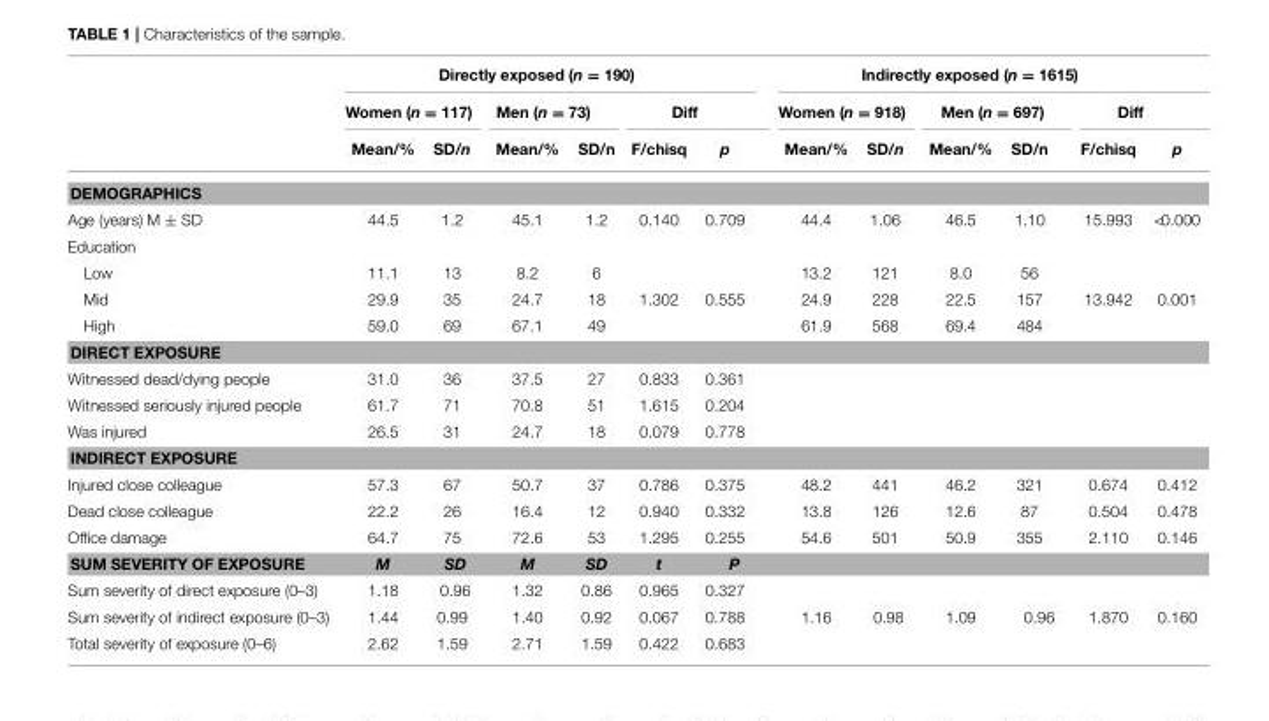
<table><thead><tr><td rowspan="3"></td><td colspan="6">Directly exposed (n = 190)</td><td colspan="6">Indirectly exposed (n = 1615)</td></tr><tr><td colspan="2">Women (n = 117)</td><td colspan="2">Men (n = 73)</td><td colspan="2">Diff</td><td colspan="2">Women (n = 918)</td><td colspan="2">Men (n = 697)</td><td colspan="2">Diff</td></tr><tr><td>Mean/%</td><td>SD/n</td><td>Mean/%</td><td>SD/n</td><td>F/chisq</td><td>p</td><td>Mean/%</td><td>SD/n</td><td>Mean/%</td><td>SD/n</td><td>F/chisq</td><td>p</td></tr></thead><tbody><tr><td colspan="13">DEMOGRAPHICS</td></tr><tr><td>Age (years) M ± SD</td><td>44.5</td><td>1.2</td><td>45.1</td><td>1.2</td><td>0.140</td><td>0.709</td><td>44.4</td><td>1.06</td><td>46.5</td><td>1.10</td><td>15.993</td><td>&lt;0.000</td></tr><tr><td colspan="13">Education</td></tr><tr><td>Low</td><td>11.1</td><td>13</td><td>8.2</td><td>6</td><td></td><td></td><td>13.2</td><td>121</td><td>8.0</td><td>56</td><td></td><td></td></tr><tr><td>Mid</td><td>29.9</td><td>35</td><td>24.7</td><td>18</td><td>1.302</td><td>0.555</td><td>24.9</td><td>228</td><td>22.5</td><td>157</td><td>13.942</td><td>0.001</td></tr><tr><td>High</td><td>59.0</td><td>69</td><td>67.1</td><td>49</td><td></td><td></td><td>61.9</td><td>568</td><td>69.4</td><td>484</td><td></td><td></td></tr><tr><td colspan="13">DIRECT EXPOSURE</td></tr><tr><td>Witnessed dead/dying people</td><td>31.0</td><td>36</td><td>37.5</td><td>27</td><td>0.833</td><td>0.361</td><td></td><td></td><td></td><td></td><td></td><td></td></tr><tr><td>Witnessed seriously injured people</td><td>61.7</td><td>71</td><td>70.8</td><td>51</td><td>1.615</td><td>0.204</td><td></td><td></td><td></td><td></td><td></td><td></td></tr><tr><td>Was injured</td><td>26.5</td><td>31</td><td>24.7</td><td>18</td><td>0.079</td><td>0.778</td><td></td><td></td><td></td><td></td><td></td><td></td></tr><tr><td colspan="13">INDIRECT EXPOSURE</td></tr><tr><td>Injured close colleague</td><td>57.3</td><td>67</td><td>50.7</td><td>37</td><td>0.786</td><td>0.375</td><td>48.2</td><td>441</td><td>46.2</td><td>321</td><td>0.674</td><td>0.412</td></tr><tr><td>Dead close colleague</td><td>22.2</td><td>26</td><td>16.4</td><td>12</td><td>0.940</td><td>0.332</td><td>13.8</td><td>126</td><td>12.6</td><td>87</td><td>0.504</td><td>0.478</td></tr><tr><td>Office damage</td><td>64.7</td><td>75</td><td>72.6</td><td>53</td><td>1.295</td><td>0.255</td><td>54.6</td><td>501</td><td>50.9</td><td>355</td><td>2.110</td><td>0.146</td></tr><tr><td>SUM SEVERITY OF EXPOSURE</td><td>M</td><td>SD</td><td>M</td><td>SD</td><td>t</td><td>P</td><td></td><td></td><td></td><td></td><td></td><td></td></tr><tr><td>Sum severity of direct exposure (0–3)</td><td>1.18</td><td>0.96</td><td>1.32</td><td>0.86</td><td>0.965</td><td>0.327</td><td></td><td></td><td></td><td></td><td></td><td></td></tr><tr><td>Sum severity of indirect exposure (0–3)</td><td>1.44</td><td>0.99</td><td>1.40</td><td>0.92</td><td>0.067</td><td>0.788</td><td>1.16</td><td>0.98</td><td>1.09</td><td>0.96</td><td>1.870</td><td>0.160</td></tr><tr><td>Total severity of exposure (0–6)</td><td>2.62</td><td>1.59</td><td>2.71</td><td>1.59</td><td>0.422</td><td>0.683</td><td></td><td></td><td></td><td></td><td></td><td></td></tr></tbody></table>